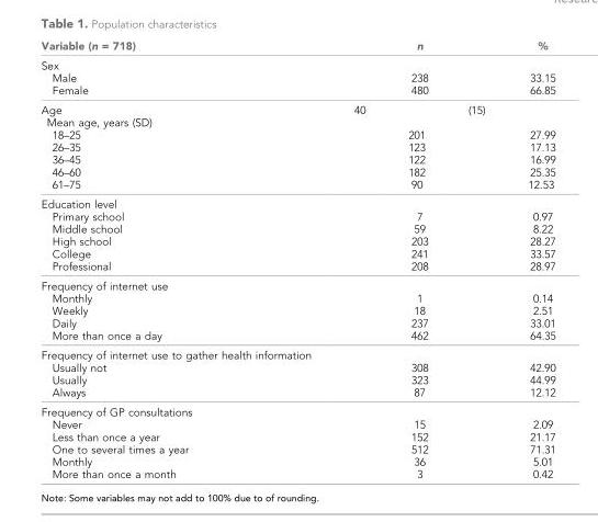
<table><thead><tr><td rowspan="3">Variable (n = 718) Sex Male Female Age Mean age, years (SD) 18–25 26–35 36–45 46–60 61–75</td><td rowspan="2" colspan="3">n 238 480</td><td rowspan="3">% 33.15 66.85 27.99 17.13 16.99 25.35 12.53</td></tr><tr></tr><tr><td>40</td><td>201 123 122 182 90</td><td>(15)</td></tr></thead><tbody><tr><td>Education level Primary school Middle school High school College Professional</td><td colspan="3">7 59 203 241 208</td><td>0.97 8.22 28.27 33.57 28.97</td></tr><tr><td>Frequency of internet use Monthly Weekly Daily More than once a day</td><td colspan="3">1 18 237 462</td><td>0.14 2.51 33.01 64.35</td></tr><tr><td>Frequency of internet use to gather health information Usually not Usually Always</td><td colspan="3">308 323 87</td><td>42.90 44.99 12.12</td></tr><tr><td>Frequency of GP consultations Never Less than once a year One to several times a year Monthly More than once a month</td><td colspan="3">15 152 512 36 3</td><td>2.09 21.17 71.31 5.01 0.42</td></tr></tbody></table>